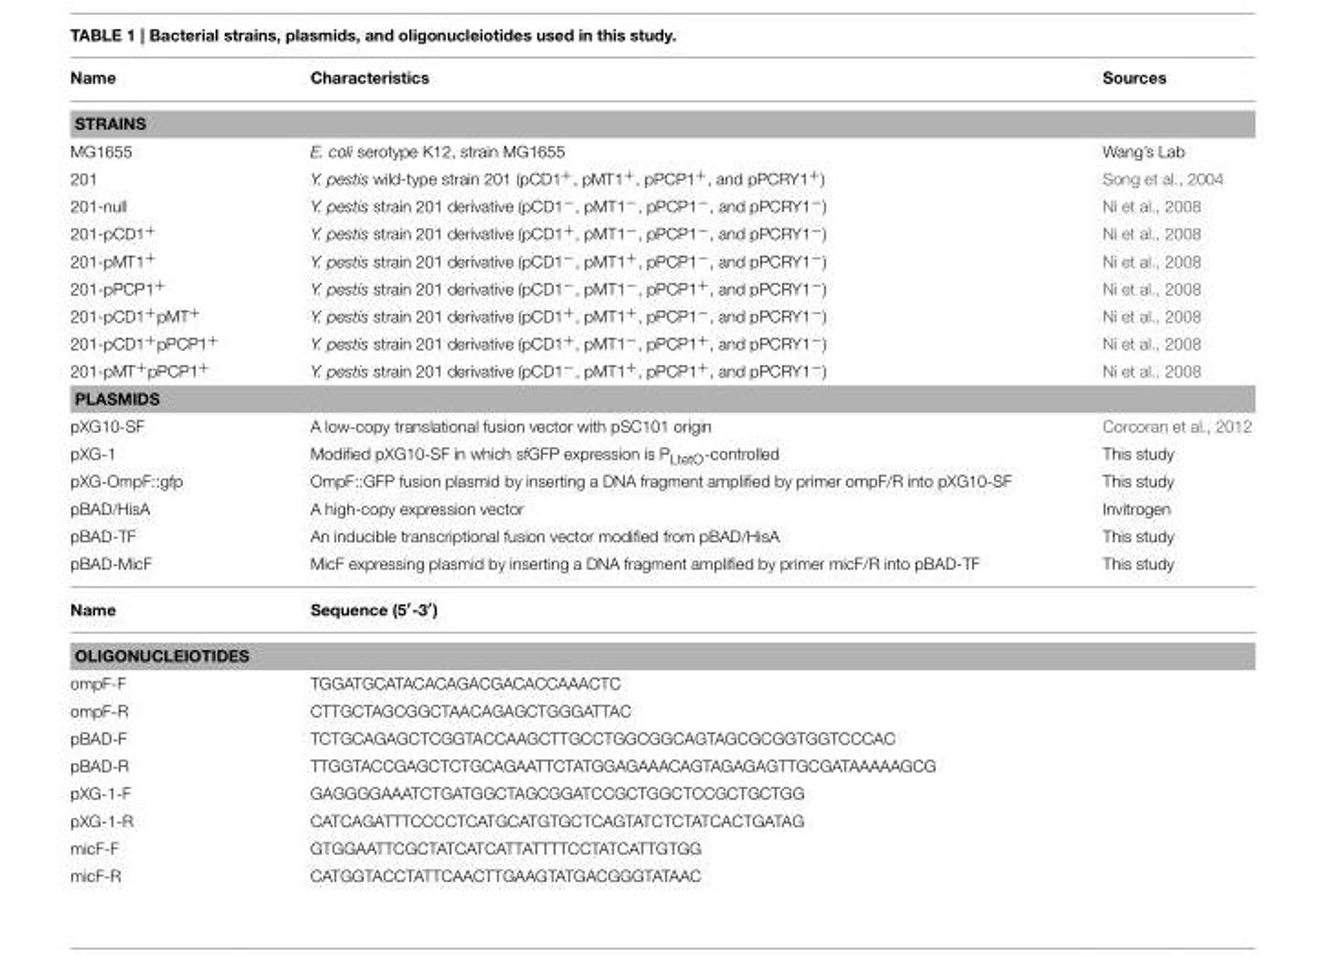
<table><thead><tr><td>Name</td><td>Characteristics</td><td>Sources</td></tr></thead><tbody><tr><td colspan="3">STRAINS</td></tr><tr><td>MG1655</td><td>E. coli serotype K12, strain MG1655</td><td>Wang’s Lab</td></tr><tr><td>201</td><td>Y. pestis wild-type strain 201 (pCD1<sup>+</sup>, pMT1<sup>+</sup>, pPCP1<sup>+</sup>, and pPCRY1<sup>+</sup>)</td><td>Song et al., 2004</td></tr><tr><td>201-null</td><td>Y. pestis strain 201 derivative (pCD1<sup>−</sup>, pMT1<sup>−</sup>, pPCP1<sup>−</sup>, and pPCRY1<sup>−</sup>)</td><td>Ni et al., 2008</td></tr><tr><td>201-pCD1<sup>+</sup></td><td>Y. pestis strain 201 derivative (pCD1<sup>+</sup>, pMT1<sup>−</sup>, pPCP1<sup>−</sup>, and pPCRY1<sup>−</sup>)</td><td>Ni et al., 2008</td></tr><tr><td>201-pMT1<sup>+</sup></td><td>Y. pestis strain 201 derivative (pCD1<sup>−</sup>, pMT1<sup>+</sup>, pPCP1<sup>−</sup>, and pPCRY1<sup>−</sup>)</td><td>Ni et al., 2008</td></tr><tr><td>201-pPCP1<sup>+</sup></td><td>Y. pestis strain 201 derivative (pCD1<sup>−</sup>, pMT1<sup>−</sup>, pPCP1<sup>+</sup>, and pPCRY1<sup>−</sup>)</td><td>Ni et al., 2008</td></tr><tr><td>201-pCD1<sup>+</sup>pMT<sup>+</sup></td><td>Y. pestis strain 201 derivative (pCD1<sup>+</sup>, pMT1<sup>+</sup>, pPCP1<sup>−</sup>, and pPCRY1<sup>−</sup>)</td><td>Ni et al., 2008</td></tr><tr><td>201-pCD1<sup>+</sup>pPCP1<sup>+</sup></td><td>Y. pestis strain 201 derivative (pCD1<sup>+</sup>, pMT1<sup>−</sup>, pPCP1<sup>+</sup>, and pPCRY1<sup>−</sup>)</td><td>Ni et al., 2008</td></tr><tr><td>201-pMT<sup>+</sup>pPCP1<sup>+</sup></td><td>Y. pestis strain 201 derivative (pCD1<sup>−</sup>, pMT1<sup>+</sup>, pPCP1<sup>+</sup>, and pPCRY1<sup>−</sup>)</td><td>Ni et al., 2008</td></tr><tr><td colspan="3">PLASMIDS</td></tr><tr><td>pXG10-SF</td><td>A low-copy translational fusion vector with pSC101 origin</td><td>Corcoran et al., 2012</td></tr><tr><td>pXG-1</td><td>Modified pXG10-SF in which sfGFP expression is P<sub>LtetO</sub>-controlled</td><td>This study</td></tr><tr><td>pXG-OmpF::gfp</td><td>OmpF::GFP fusion plasmid by inserting a DNA fragment amplified by primer ompF/R into pXG10-SF</td><td>This study</td></tr><tr><td>pBAD/HisA</td><td>A high-copy expression vector</td><td>Invitrogen</td></tr><tr><td>pBAD-TF</td><td>An inducible transcriptional fusion vector modified from pBAD/HisA</td><td>This study</td></tr><tr><td>pBAD-MicF</td><td>MicF expressing plasmid by inserting a DNA fragment amplified by primer micF/R into pBAD-TF</td><td>This study</td></tr><tr><td>Name</td><td colspan="2">Sequence (5′-3′)</td></tr><tr><td colspan="3">OLIGONUCLEIOTIDES</td></tr><tr><td>ompF-F</td><td colspan="2">TGGATGCATACACAGACGACACCAAACTC</td></tr><tr><td>ompF-R</td><td colspan="2">CTTGCTAGCGGCTAACAGAGCTGGGATTAC</td></tr><tr><td>pBAD-F</td><td colspan="2">TCTGCAGAGCTCGGTACCAAGCTTGCCTGGCGGCAGTAGCGCGGTGGTCCCAC</td></tr><tr><td>pBAD-R</td><td colspan="2">TTGGTACCGAGCTCTGCAGAATTCTATGGAGAAACAGTAGAGAGTTGCGATAAAAAGCG</td></tr><tr><td>pXG-1-F</td><td colspan="2">GAGGGGAAATCTGATGGCTAGCGGATCCGCTGGCTCCGCTGCTGG</td></tr><tr><td>pXG-1-R</td><td colspan="2">CATCAGATTTCCCCTCATGCATGTGCTCAGTATCTCTATCACTGATAG</td></tr><tr><td>micF-F</td><td colspan="2">GTGGAATTCGCTATCATCATTATTTTCCTATCATTGTGG</td></tr><tr><td>micF-R</td><td colspan="2">CATGGTACCTATTCAACTTGAAGTATGACGGGTATAAC</td></tr></tbody></table>